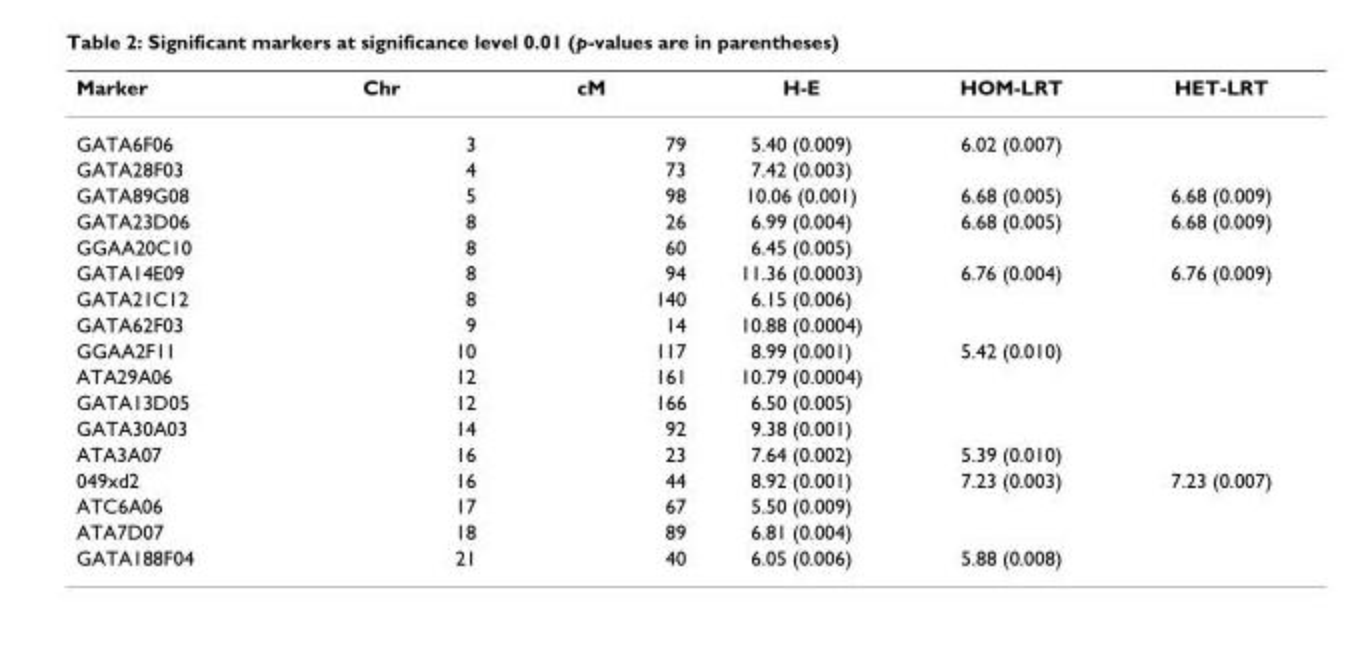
<table><thead><tr><td>Marker</td><td>Chr</td><td>cM</td><td>H-E</td><td>HOM-LRT</td><td>HET-LRT</td></tr></thead><tbody><tr><td>GATA6F06</td><td>3</td><td>79</td><td>5.40 (0.009)</td><td>6.02 (0.007)</td><td></td></tr><tr><td>GATA28F03</td><td>4</td><td>73</td><td>7.42 (0.003)</td><td></td><td></td></tr><tr><td>GATA89G08</td><td>5</td><td>98</td><td>10.06 (0.001)</td><td>6.68 (0.005)</td><td>6.68 (0.009)</td></tr><tr><td>GATA23D06</td><td>8</td><td>26</td><td>6.99 (0.004)</td><td>6.68 (0.005)</td><td>6.68 (0.009)</td></tr><tr><td>GGAA20C10</td><td>8</td><td>60</td><td>6.45 (0.005)</td><td></td><td></td></tr><tr><td>GATA14E09</td><td>8</td><td>94</td><td>11.36 (0.0003)</td><td>6.76 (0.004)</td><td>6.76 (0.009)</td></tr><tr><td>GATA21C12</td><td>8</td><td>140</td><td>6.15 (0.006)</td><td></td><td></td></tr><tr><td>GATA62F03</td><td>9</td><td>14</td><td>10.88 (0.0004)</td><td></td><td></td></tr><tr><td>GGAA2F11</td><td>10</td><td>117</td><td>8.99 (0.001)</td><td>5.42 (0.010)</td><td></td></tr><tr><td>ATA29A06</td><td>12</td><td>161</td><td>10.79 (0.0004)</td><td></td><td></td></tr><tr><td>GATA13D05</td><td>12</td><td>166</td><td>6.50 (0.005)</td><td></td><td></td></tr><tr><td>GATA30A03</td><td>14</td><td>92</td><td>9.38 (0.001)</td><td></td><td></td></tr><tr><td>ATA3A07</td><td>16</td><td>23</td><td>7.64 (0.002)</td><td>5.39 (0.010)</td><td></td></tr><tr><td>049xd2</td><td>16</td><td>44</td><td>8.92 (0.001)</td><td>7.23 (0.003)</td><td>7.23 (0.007)</td></tr><tr><td>ATC6A06</td><td>17</td><td>67</td><td>5.50 (0.009)</td><td></td><td></td></tr><tr><td>ATA7D07</td><td>18</td><td>89</td><td>6.81 (0.004)</td><td></td><td></td></tr><tr><td>GATA188F04</td><td>21</td><td>40</td><td>6.05 (0.006)</td><td>5.88 (0.008)</td><td></td></tr></tbody></table>